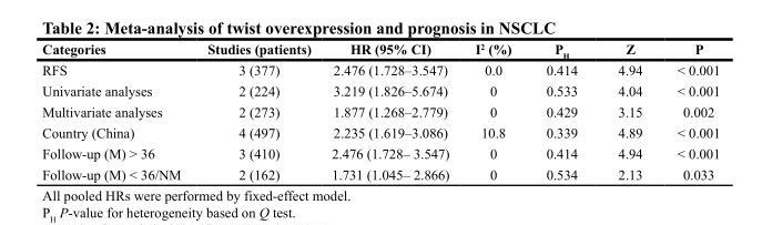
<table><thead><tr><td>Categories</td><td>Studies (patients)</td><td>HR (95% CI)</td><td>I<sup>2</sup> (%)</td><td>P<sub>H</sub></td><td>Z</td><td>P</td></tr></thead><tbody><tr><td>RFS</td><td>3 (377)</td><td>2.476 (1.728–3.547)</td><td>0.0</td><td>0.414</td><td>4.94</td><td>&lt; 0.001</td></tr><tr><td>Univariate analyses</td><td>2 (224)</td><td>3.219 (1.826–5.674)</td><td>0</td><td>0.533</td><td>4.04</td><td>&lt; 0.001</td></tr><tr><td>Multivariate analyses</td><td>2 (273)</td><td>1.877 (1.268–2.779)</td><td>0</td><td>0.429</td><td>3.15</td><td>0.002</td></tr><tr><td>Country (China)</td><td>4 (497)</td><td>2.235 (1.619–3.086)</td><td>10.8</td><td>0.339</td><td>4.89</td><td>&lt; 0.001</td></tr><tr><td>Follow-up (M) &gt; 36</td><td>3 (410)</td><td>2.476 (1.728– 3.547)</td><td>0</td><td>0.414</td><td>4.94</td><td>&lt; 0.001</td></tr><tr><td>Follow-up (M) &lt; 36/NM</td><td>2 (162)</td><td>1.731 (1.045– 2.866)</td><td>0</td><td>0.534</td><td>2.13</td><td>0.033</td></tr></tbody></table>